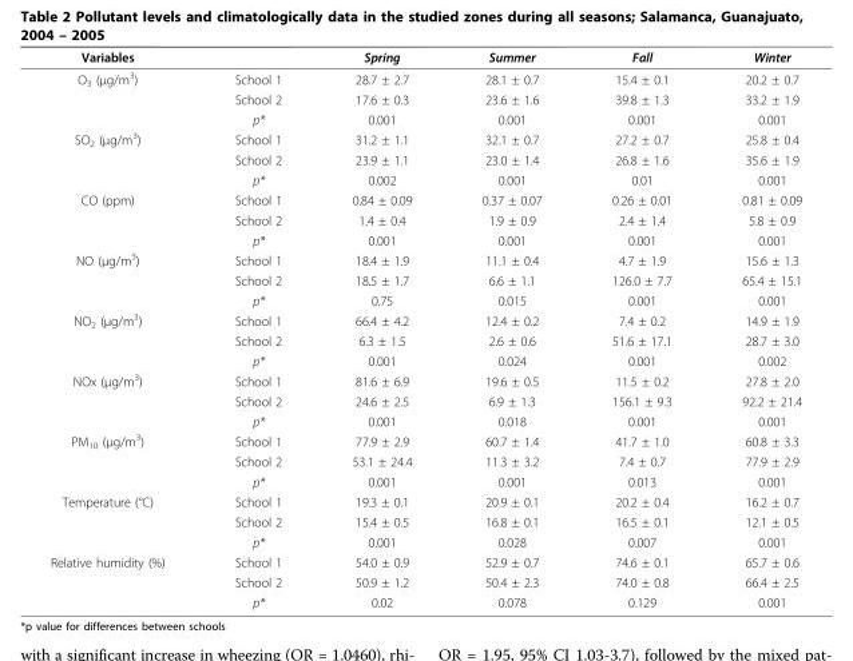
<table><thead><tr><td>Variables</td><td></td><td>Spring</td><td>Summer</td><td>Fall</td><td>Winter</td></tr></thead><tbody><tr><td rowspan="3">O<sub>3</sub> (μg/m<sup>3</sup>)</td><td>School 1</td><td>28.7 ± 2.7</td><td>28.1 ± 0.7</td><td>15.4 ± 0.1</td><td>20.2 ± 0.7</td></tr><tr><td>School 2</td><td>17.6 ± 0.3</td><td>23.6 ± 1.6</td><td>39.8 ± 1.3</td><td>33.2 ± 1.9</td></tr><tr><td>p*</td><td>0.001</td><td>0.001</td><td>0.001</td><td>0.001</td></tr><tr><td rowspan="3">SO<sub>2</sub> (μg/m<sup>3</sup>)</td><td>School 1</td><td>31.2 ± 1.1</td><td>32.1 ± 0.7</td><td>27.2 ± 0.7</td><td>25.8 ± 0.4</td></tr><tr><td>School 2</td><td>23.9 ± 1.1</td><td>23.0 ± 1.4</td><td>26.8 ± 1.6</td><td>35.6 ± 1.9</td></tr><tr><td>p*</td><td>0.002</td><td>0.001</td><td>0.01</td><td>0.001</td></tr><tr><td rowspan="3">CO (ppm)</td><td>School 1</td><td>0.84 ± 0.09</td><td>0.37 ± 0.07</td><td>0.26 ± 0.01</td><td>0.81 ± 0.09</td></tr><tr><td>School 2</td><td>1.4 ± 0.4</td><td>1.9 ± 0.9</td><td>2.4 ± 1.4</td><td>5.8 ± 0.9</td></tr><tr><td>p*</td><td>0.001</td><td>0.001</td><td>0.001</td><td>0.001</td></tr><tr><td rowspan="3">NO (μg/m<sup>3</sup>)</td><td>School 1</td><td>18.4 ± 1.9</td><td>11.1 ± 0.4</td><td>4.7 ± 1.9</td><td>15.6 ± 1.3</td></tr><tr><td>School 2</td><td>18.5 ± 1.7</td><td>6.6 ± 1.1</td><td>126.0 ± 7.7</td><td>65.4 ± 15.1</td></tr><tr><td>p*</td><td>0.75</td><td>0.015</td><td>0.001</td><td>0.001</td></tr><tr><td rowspan="3">NO<sub>2</sub> (μg/m<sup>3</sup>)</td><td>School 1</td><td>66.4 ± 4.2</td><td>12.4 ± 0.2</td><td>7.4 ± 0.2</td><td>14.9 ± 1.9</td></tr><tr><td>School 2</td><td>6.3 ± 1.5</td><td>2.6 ± 0.6</td><td>51.6 ± 17.1</td><td>28.7 ± 3.0</td></tr><tr><td>p*</td><td>0.001</td><td>0.024</td><td>0.001</td><td>0.002</td></tr><tr><td rowspan="3">NOx (μg/m<sup>3</sup>)</td><td>School 1</td><td>81.6 ± 6.9</td><td>19.6 ± 0.5</td><td>11.5 ± 0.2</td><td>27.8 ± 2.0</td></tr><tr><td>School 2</td><td>24.6 ± 2.5</td><td>6.9 ± 1.3</td><td>156.1 ± 9.3</td><td>92.2 ± 21.4</td></tr><tr><td>p*</td><td>0.001</td><td>0.018</td><td>0.001</td><td>0.001</td></tr><tr><td rowspan="3">PM<sub>10</sub> (μg/m<sup>3</sup>)</td><td>School 1</td><td>77.9 ± 2.9</td><td>60.7 ± 1.4</td><td>41.7 ± 1.0</td><td>60.8 ± 3.3</td></tr><tr><td>School 2</td><td>53.1 ± 24.4</td><td>11.3 ± 3.2</td><td>7.4 ± 0.7</td><td>77.9 ± 2.9</td></tr><tr><td>p*</td><td>0.001</td><td>0.001</td><td>0.013</td><td>0.001</td></tr><tr><td rowspan="3">Temperature (°C)</td><td>School 1</td><td>19.3 ± 0.1</td><td>20.9 ± 0.1</td><td>20.2 ± 0.4</td><td>16.2 ± 0.7</td></tr><tr><td>School 2</td><td>15.4 ± 0.5</td><td>16.8 ± 0.1</td><td>16.5 ± 0.1</td><td>12.1 ± 0.5</td></tr><tr><td>p*</td><td>0.001</td><td>0.028</td><td>0.007</td><td>0.001</td></tr><tr><td rowspan="3">Relative humidity (%)</td><td>School 1</td><td>54.0 ± 0.9</td><td>52.9 ± 0.7</td><td>74.6 ± 0.1</td><td>65.7 ± 0.6</td></tr><tr><td>School 2</td><td>50.9 ± 1.2</td><td>50.4 ± 2.3</td><td>74.0 ± 0.8</td><td>66.4 ± 2.5</td></tr><tr><td>p*</td><td>0.02</td><td>0.078</td><td>0.129</td><td>0.001</td></tr></tbody></table>